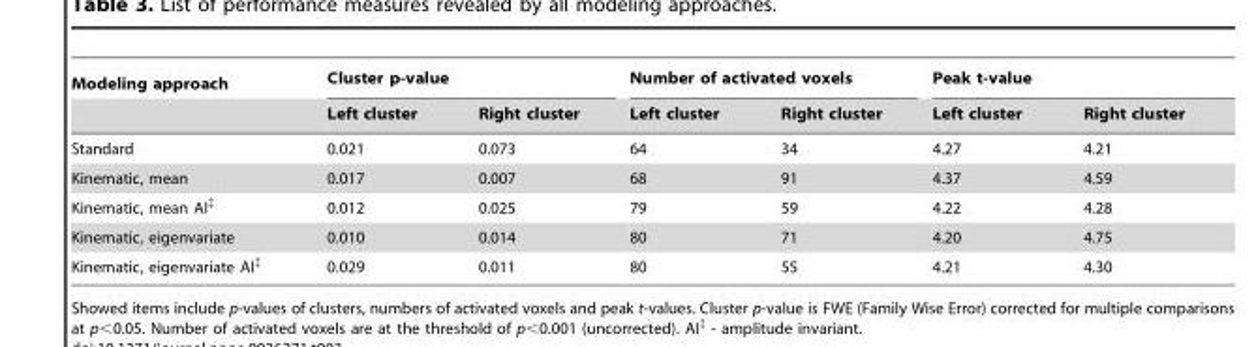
<table><thead><tr><td rowspan="2">Modeling approach</td><td colspan="2">Cluster p-value</td><td colspan="2">Number of activated voxels</td><td colspan="2">Peak t-value</td></tr><tr><td>Left cluster</td><td>Right cluster</td><td>Left cluster</td><td>Right cluster</td><td>Left cluster</td><td>Right cluster</td></tr></thead><tbody><tr><td>Standard</td><td>0.021</td><td>0.073</td><td>64</td><td>34</td><td>4.27</td><td>4.21</td></tr><tr><td>Kinematic, mean</td><td>0.017</td><td>0.007</td><td>68</td><td>91</td><td>4.37</td><td>4.59</td></tr><tr><td>Kinematic, mean AI<sup>‡</sup></td><td>0.012</td><td>0.025</td><td>79</td><td>59</td><td>4.22</td><td>4.28</td></tr><tr><td>Kinematic, eigenvariate</td><td>0.010</td><td>0.014</td><td>80</td><td>71</td><td>4.20</td><td>4.75</td></tr><tr><td>Kinematic, eigenvariate AI<sup>‡</sup></td><td>0.029</td><td>0.011</td><td>80</td><td>55</td><td>4.21</td><td>4.30</td></tr></tbody></table>